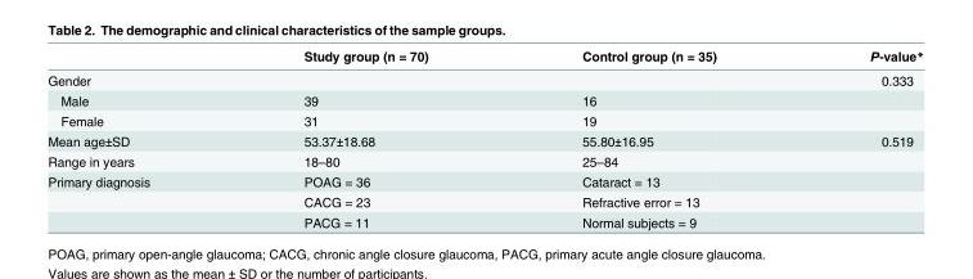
<table><thead><tr><td></td><td>Study group (n = 70)</td><td>Control group (n = 35)</td><td>P-value*</td></tr></thead><tbody><tr><td>Gender</td><td></td><td></td><td>0.333</td></tr><tr><td>Male</td><td>39</td><td>16</td><td></td></tr><tr><td>Female</td><td>31</td><td>19</td><td></td></tr><tr><td>Mean age±SD</td><td>53.37±18.68</td><td>55.80±16.95</td><td>0.519</td></tr><tr><td>Range in years</td><td>18–80</td><td>25–84</td><td></td></tr><tr><td rowspan="3">Primary diagnosis</td><td>POAG = 36</td><td>Cataract = 13</td><td></td></tr><tr><td>CACG = 23</td><td>Refractive error = 13</td><td></td></tr><tr><td>PACG = 11</td><td>Normal subjects = 9</td><td></td></tr></tbody></table>